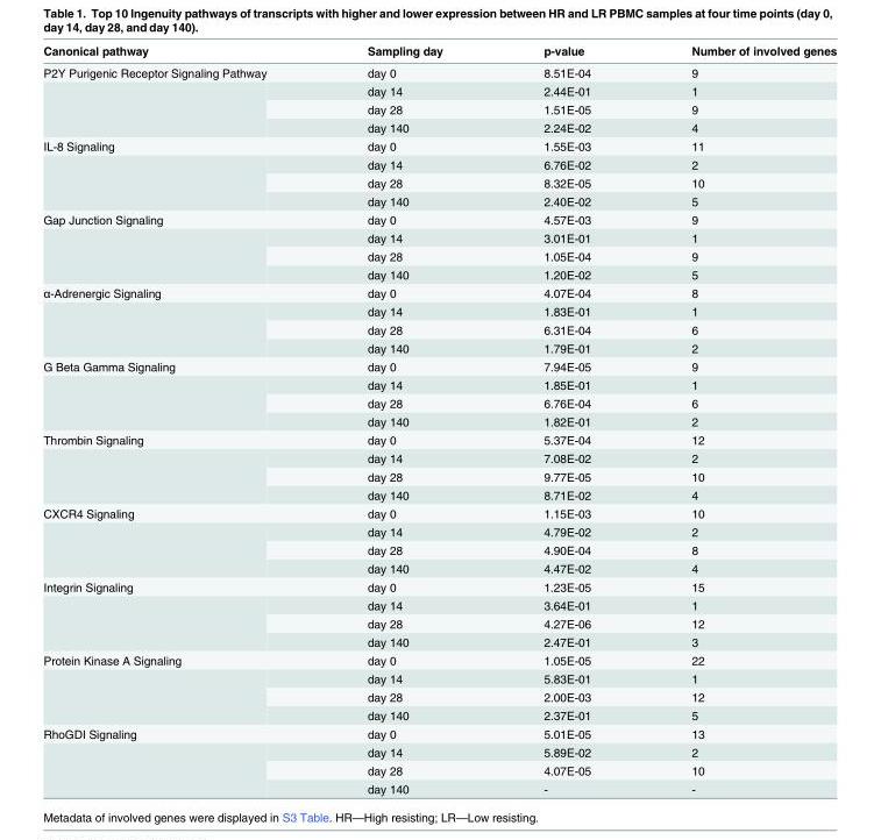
<table><thead><tr><td>Canonical pathway</td><td>Sampling day</td><td>p-value</td><td>Number of involved genes</td></tr></thead><tbody><tr><td rowspan="4">P2Y Purigenic Receptor Signaling Pathway</td><td>day 0</td><td>8.51E-04</td><td>9</td></tr><tr><td>day 14</td><td>2.44E-01</td><td>1</td></tr><tr><td>day 28</td><td>1.51E-05</td><td>9</td></tr><tr><td>day 140</td><td>2.24E-02</td><td>4</td></tr><tr><td rowspan="4">IL-8 Signaling</td><td>day 0</td><td>1.55E-03</td><td>11</td></tr><tr><td>day 14</td><td>6.76E-02</td><td>2</td></tr><tr><td>day 28</td><td>8.32E-05</td><td>10</td></tr><tr><td>day 140</td><td>2.40E-02</td><td>5</td></tr><tr><td rowspan="4">Gap Junction Signaling</td><td>day 0</td><td>4.57E-03</td><td>9</td></tr><tr><td>day 14</td><td>3.01E-01</td><td>1</td></tr><tr><td>day 28</td><td>1.05E-04</td><td>9</td></tr><tr><td>day 140</td><td>1.20E-02</td><td>5</td></tr><tr><td rowspan="4">α-Adrenergic Signaling</td><td>day 0</td><td>4.07E-04</td><td>8</td></tr><tr><td>day 14</td><td>1.83E-01</td><td>1</td></tr><tr><td>day 28</td><td>6.31E-04</td><td>6</td></tr><tr><td>day 140</td><td>1.79E-01</td><td>2</td></tr><tr><td rowspan="4">G Beta Gamma Signaling</td><td>day 0</td><td>7.94E-05</td><td>9</td></tr><tr><td>day 14</td><td>1.85E-01</td><td>1</td></tr><tr><td>day 28</td><td>6.76E-04</td><td>6</td></tr><tr><td>day 140</td><td>1.82E-01</td><td>2</td></tr><tr><td rowspan="4">Thrombin Signaling</td><td>day 0</td><td>5.37E-04</td><td>12</td></tr><tr><td>day 14</td><td>7.08E-02</td><td>2</td></tr><tr><td>day 28</td><td>9.77E-05</td><td>10</td></tr><tr><td>day 140</td><td>8.71E-02</td><td>4</td></tr><tr><td rowspan="4">CXCR4 Signaling</td><td>day 0</td><td>1.15E-03</td><td>10</td></tr><tr><td>day 14</td><td>4.79E-02</td><td>2</td></tr><tr><td>day 28</td><td>4.90E-04</td><td>8</td></tr><tr><td>day 140</td><td>4.47E-02</td><td>4</td></tr><tr><td rowspan="4">Integrin Signaling</td><td>day 0</td><td>1.23E-05</td><td>15</td></tr><tr><td>day 14</td><td>3.64E-01</td><td>1</td></tr><tr><td>day 28</td><td>4.27E-06</td><td>12</td></tr><tr><td>day 140</td><td>2.47E-01</td><td>3</td></tr><tr><td rowspan="4">Protein Kinase A Signaling</td><td>day 0</td><td>1.05E-05</td><td>22</td></tr><tr><td>day 14</td><td>5.83E-01</td><td>1</td></tr><tr><td>day 28</td><td>2.00E-03</td><td>12</td></tr><tr><td>day 140</td><td>2.37E-01</td><td>5</td></tr><tr><td rowspan="4">RhoGDI Signaling</td><td>day 0</td><td>5.01E-05</td><td>13</td></tr><tr><td>day 14</td><td>5.89E-02</td><td>2</td></tr><tr><td>day 28</td><td>4.07E-05</td><td>10</td></tr><tr><td>day 140</td><td>-</td><td>-</td></tr></tbody></table>